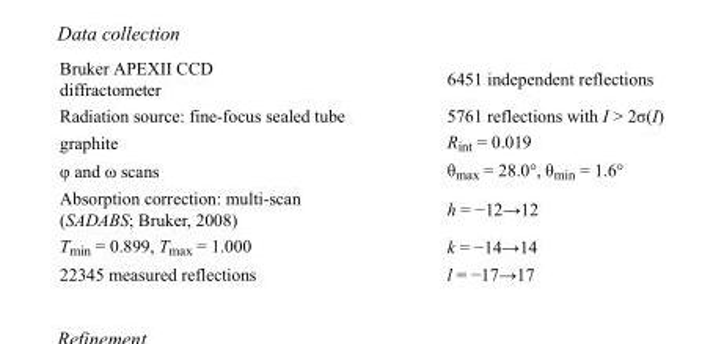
<table><tbody><tr><td>Bruker APEXII CCD diffractometer</td><td>6451 independent reflections</td></tr><tr><td>Radiation source: fine-focus sealed tube</td><td>5761 reflections with I &gt; 2σ(I)</td></tr><tr><td>graphite</td><td>R<sub>int</sub> = 0.019</td></tr><tr><td>φ and ω scans</td><td>θ<sub>max</sub> = 28.0°, θ<sub>min</sub> = 1.6°</td></tr><tr><td>Absorption correction: multi-scan (SADABS; Bruker, 2008)</td><td>h = −12→12</td></tr><tr><td>T<sub>min</sub> = 0.899, T<sub>max</sub> = 1.000</td><td>k = −14→14</td></tr><tr><td>22345 measured reflections</td><td>l = −17→17</td></tr></tbody></table>